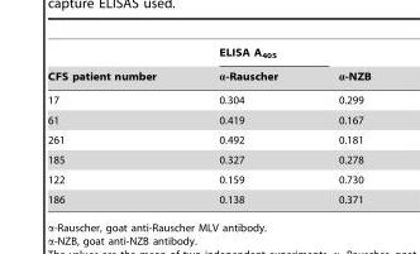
<table><thead><tr><td rowspan="2">CFS patient number</td><td rowspan="2">ELISA A<sub>405</sub> α-Rauscher</td><td rowspan="2">α-NZB</td></tr><tr></tr></thead><tbody><tr><td>17</td><td>0.304</td><td>0.299</td></tr><tr><td>61</td><td>0.419</td><td>0.167</td></tr><tr><td>261</td><td>0.492</td><td>0.181</td></tr><tr><td>185</td><td>0.327</td><td>0.278</td></tr><tr><td>122</td><td>0.159</td><td>0.730</td></tr><tr><td>186</td><td>0.138</td><td>0.371</td></tr></tbody></table>